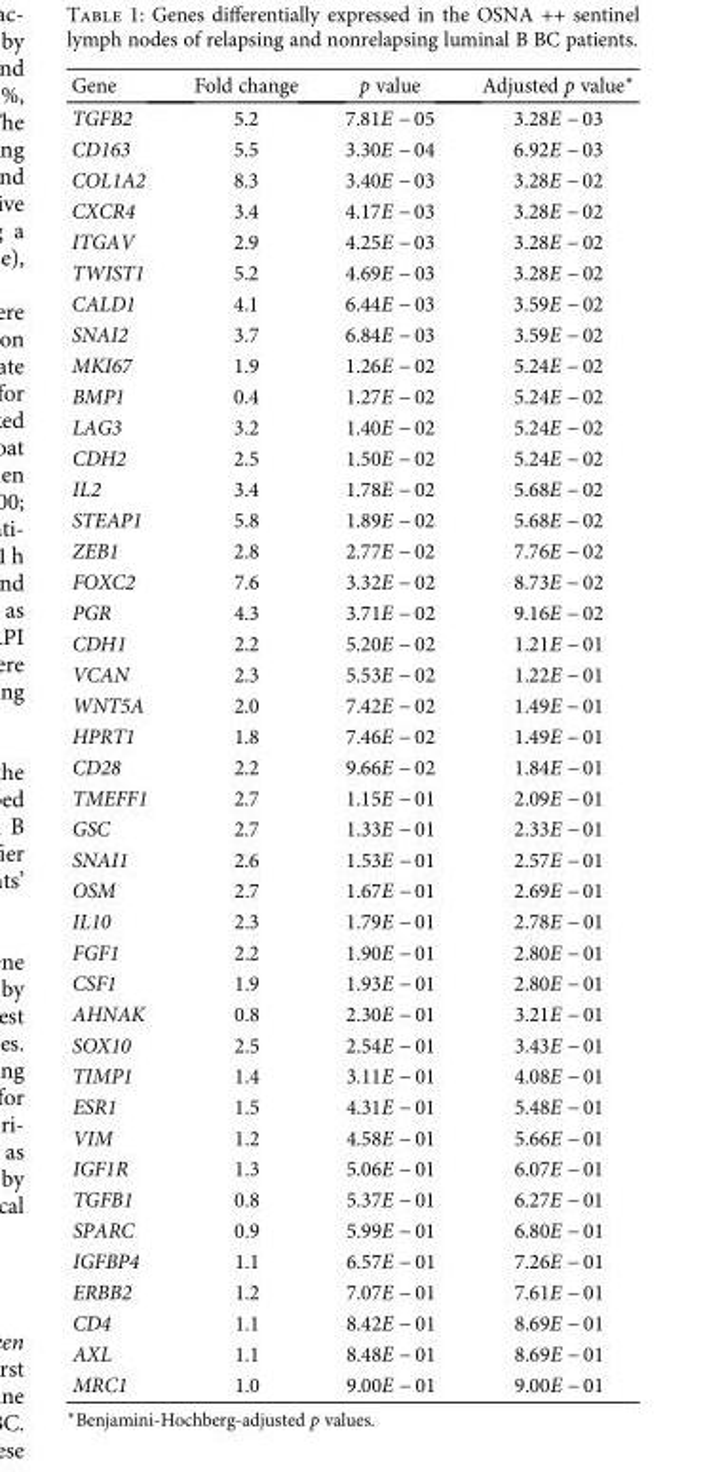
<table><thead><tr><td>Gene</td><td>Fold change</td><td>p value</td><td>Adjusted p value∗</td></tr></thead><tbody><tr><td>TGFB2</td><td>5.2</td><td>7.81E − 05</td><td>3.28E − 03</td></tr><tr><td>CD163</td><td>5.5</td><td>3.30E − 04</td><td>6.92E − 03</td></tr><tr><td>COL1A2</td><td>8.3</td><td>3.40E − 03</td><td>3.28E − 02</td></tr><tr><td>CXCR4</td><td>3.4</td><td>4.17E − 03</td><td>3.28E − 02</td></tr><tr><td>ITGAV</td><td>2.9</td><td>4.25E − 03</td><td>3.28E − 02</td></tr><tr><td>TWIST1</td><td>5.2</td><td>4.69E − 03</td><td>3.28E − 02</td></tr><tr><td>CALD1</td><td>4.1</td><td>6.44E − 03</td><td>3.59E − 02</td></tr><tr><td>SNAI2</td><td>3.7</td><td>6.84E − 03</td><td>3.59E − 02</td></tr><tr><td>MKI67</td><td>1.9</td><td>1.26E − 02</td><td>5.24E − 02</td></tr><tr><td>BMP1</td><td>0.4</td><td>1.27E − 02</td><td>5.24E − 02</td></tr><tr><td>LAG3</td><td>3.2</td><td>1.40E − 02</td><td>5.24E − 02</td></tr><tr><td>CDH2</td><td>2.5</td><td>1.50E − 02</td><td>5.24E − 02</td></tr><tr><td>IL2</td><td>3.4</td><td>1.78E − 02</td><td>5.68E − 02</td></tr><tr><td>STEAP1</td><td>5.8</td><td>1.89E − 02</td><td>5.68E − 02</td></tr><tr><td>ZEB1</td><td>2.8</td><td>2.77E − 02</td><td>7.76E − 02</td></tr><tr><td>FOXC2</td><td>7.6</td><td>3.32E − 02</td><td>8.73E − 02</td></tr><tr><td>PGR</td><td>4.3</td><td>3.71E − 02</td><td>9.16E − 02</td></tr><tr><td>CDH1</td><td>2.2</td><td>5.20E − 02</td><td>1.21E − 01</td></tr><tr><td>VCAN</td><td>2.3</td><td>5.53E − 02</td><td>1.22E − 01</td></tr><tr><td>WNT5A</td><td>2.0</td><td>7.42E − 02</td><td>1.49E − 01</td></tr><tr><td>HPRT1</td><td>1.8</td><td>7.46E − 02</td><td>1.49E − 01</td></tr><tr><td>CD28</td><td>2.2</td><td>9.66E − 02</td><td>1.84E − 01</td></tr><tr><td>TMEFF1</td><td>2.7</td><td>1.15E − 01</td><td>2.09E − 01</td></tr><tr><td>GSC</td><td>2.7</td><td>1.33E − 01</td><td>2.33E − 01</td></tr><tr><td>SNAI1</td><td>2.6</td><td>1.53E − 01</td><td>2.57E − 01</td></tr><tr><td>OSM</td><td>2.7</td><td>1.67E − 01</td><td>2.69E − 01</td></tr><tr><td>IL10</td><td>2.3</td><td>1.79E − 01</td><td>2.78E − 01</td></tr><tr><td>FGF1</td><td>2.2</td><td>1.90E − 01</td><td>2.80E − 01</td></tr><tr><td>CSF1</td><td>1.9</td><td>1.93E − 01</td><td>2.80E − 01</td></tr><tr><td>AHNAK</td><td>0.8</td><td>2.30E − 01</td><td>3.21E − 01</td></tr><tr><td>SOX10</td><td>2.5</td><td>2.54E − 01</td><td>3.43E − 01</td></tr><tr><td>TIMP1</td><td>1.4</td><td>3.11E − 01</td><td>4.08E − 01</td></tr><tr><td>ESR1</td><td>1.5</td><td>4.31E − 01</td><td>5.48E − 01</td></tr><tr><td>VIM</td><td>1.2</td><td>4.58E − 01</td><td>5.66E − 01</td></tr><tr><td>IGF1R</td><td>1.3</td><td>5.06E − 01</td><td>6.07E − 01</td></tr><tr><td>TGFB1</td><td>0.8</td><td>5.37E − 01</td><td>6.27E − 01</td></tr><tr><td>SPARC</td><td>0.9</td><td>5.99E − 01</td><td>6.80E − 01</td></tr><tr><td>IGFBP4</td><td>1.1</td><td>6.57E − 01</td><td>7.26E − 01</td></tr><tr><td>ERBB2</td><td>1.2</td><td>7.07E − 01</td><td>7.61E − 01</td></tr><tr><td>CD4</td><td>1.1</td><td>8.42E − 01</td><td>8.69E − 01</td></tr><tr><td>AXL</td><td>1.1</td><td>8.48E − 01</td><td>8.69E − 01</td></tr><tr><td>MRC1</td><td>1.0</td><td>9.00E − 01</td><td>9.00E − 01</td></tr></tbody></table>